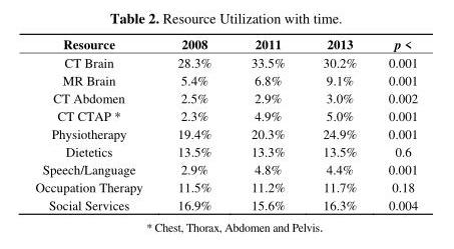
<table><thead><tr><td>Resource</td><td>2008</td><td>2011</td><td>2013</td><td>p &lt;</td></tr></thead><tbody><tr><td>CT Brain</td><td>28.3%</td><td>33.5%</td><td>30.2%</td><td>0.001</td></tr><tr><td>MR Brain</td><td>5.4%</td><td>6.8%</td><td>9.1%</td><td>0.001</td></tr><tr><td>CT Abdomen</td><td>2.5%</td><td>2.9%</td><td>3.0%</td><td>0.002</td></tr><tr><td>CT CTAP *</td><td>2.3%</td><td>4.9%</td><td>5.0%</td><td>0.001</td></tr><tr><td>Physiotherapy</td><td>19.4%</td><td>20.3%</td><td>24.9%</td><td>0.001</td></tr><tr><td>Dietetics</td><td>13.5%</td><td>13.3%</td><td>13.5%</td><td>0.6</td></tr><tr><td>Speech/Language</td><td>2.9%</td><td>4.8%</td><td>4.4%</td><td>0.001</td></tr><tr><td>Occupation Therapy</td><td>11.5%</td><td>11.2%</td><td>11.7%</td><td>0.18</td></tr><tr><td>Social Services</td><td>16.9%</td><td>15.6%</td><td>16.3%</td><td>0.004</td></tr></tbody></table>